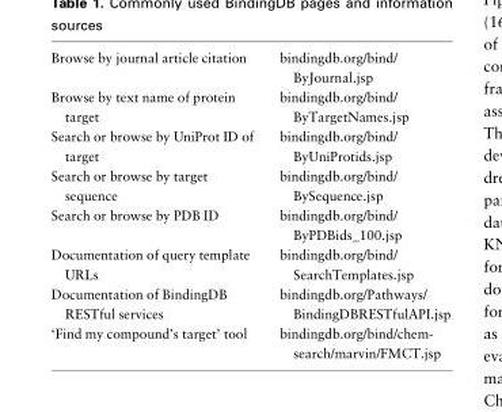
<table><tbody><tr><td>Browse by journal article citation</td><td>bindingdb.org/bind/ ByJournal.jsp</td></tr><tr><td>Browse by text name of protein target</td><td>bindingdb.org/bind/ ByTargetNames.jsp</td></tr><tr><td>Search or browse by UniProt ID of target</td><td>bindingdb.org/bind/ ByUniProtids.jsp</td></tr><tr><td>Search or browse by target sequence</td><td>bindingdb.org/bind/ BySequence.jsp</td></tr><tr><td>Search or browse by PDB ID</td><td>bindingdb.org/bind/ ByPDBids_100.jsp</td></tr><tr><td>Documentation of query template URLs</td><td>bindingdb.org/bind/ SearchTemplates.jsp</td></tr><tr><td>Documentation of BindingDB RESTful services</td><td>bindingdb.org/Pathways/ BindingDBRESTfulAPI.jsp</td></tr><tr><td>‘Find my compound’s target’ tool</td><td>bindingdb.org/bind/chem- search/marvin/FMCT.jsp</td></tr></tbody></table>